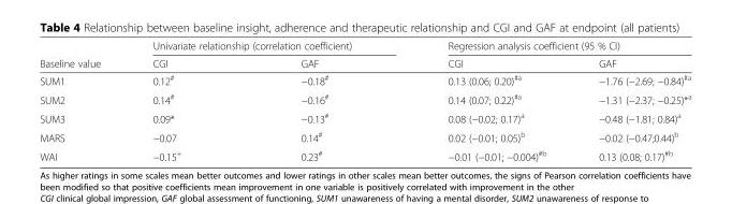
<table><thead><tr><td rowspan="2">Baseline value</td><td colspan="2">Univariate relationship (correlation coefficient)</td><td colspan="2">Regression analysis coefficient (95 % CI)</td></tr><tr><td>CGI</td><td>GAF</td><td>CGI</td><td>GAF</td></tr></thead><tbody><tr><td>SUM1</td><td>0.12<sup>#</sup></td><td>−0.18<sup>#</sup></td><td>0.13 (0.06; 0.20)<sup>#a</sup></td><td>−1.76 (−2.69; −0.84)<sup>#a</sup></td></tr><tr><td>SUM2</td><td>0.14<sup>#</sup></td><td>−0.16<sup>#</sup></td><td>0.14 (0.07; 0.22)<sup>#a</sup></td><td>−1.31 (−2.37; −0.25)*<sup>a</sup></td></tr><tr><td>SUM3</td><td>0.09*</td><td>−0.13<sup>#</sup></td><td>0.08 (−0.02; 0.17)<sup>a</sup></td><td>−0.48 (−1.81; 0.84)<sup>a</sup></td></tr><tr><td>MARS</td><td>−0.07</td><td>0.14<sup>#</sup></td><td>0.02 (−0.01; 0.05)<sup>b</sup></td><td>−0.02 (−0.47;0.44)<sup>b</sup></td></tr><tr><td>WAI</td><td>−0.15<sup>+</sup></td><td>0.23<sup>#</sup></td><td>−0.01 (−0.01; −0.004)<sup>#b</sup></td><td>0.13 (0.08; 0.17)<sup>#b</sup></td></tr></tbody></table>